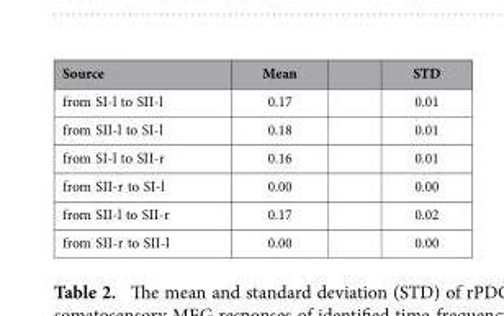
<table><thead><tr><td>Source</td><td>Mean</td><td>STD</td></tr></thead><tbody><tr><td>from SI-l to SII-l</td><td>0.17</td><td>0.01</td></tr><tr><td>from SII-l to SI-l</td><td>0.18</td><td>0.01</td></tr><tr><td>from SI-l to SII-r</td><td>0.16</td><td>0.01</td></tr><tr><td>from SII-r to SI-l</td><td>0.00</td><td>0.00</td></tr><tr><td>from SII-l to SII-r</td><td>0.17</td><td>0.02</td></tr><tr><td>from SII-r to SII-l</td><td>0.00</td><td>0.00</td></tr></tbody></table>